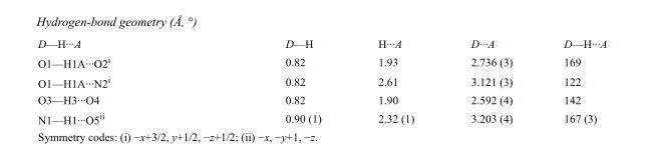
<table><tbody><tr><td>D—H···A</td><td>D—H</td><td>H···A</td><td>D···A</td><td>D—H···A</td></tr><tr><td>O1—H1A···O2<sup>i</sup></td><td>0.82</td><td>1.93</td><td>2.736 (3)</td><td>169</td></tr><tr><td>O1—H1A···N2<sup>i</sup></td><td>0.82</td><td>2.61</td><td>3.121 (3)</td><td>122</td></tr><tr><td>O3—H3···O4</td><td>0.82</td><td>1.90</td><td>2.592 (4)</td><td>142</td></tr><tr><td>N1—H1···O5<sup>ii</sup></td><td>0.90 (1)</td><td>2.32 (1)</td><td>3.203 (4)</td><td>167 (3)</td></tr></tbody></table>